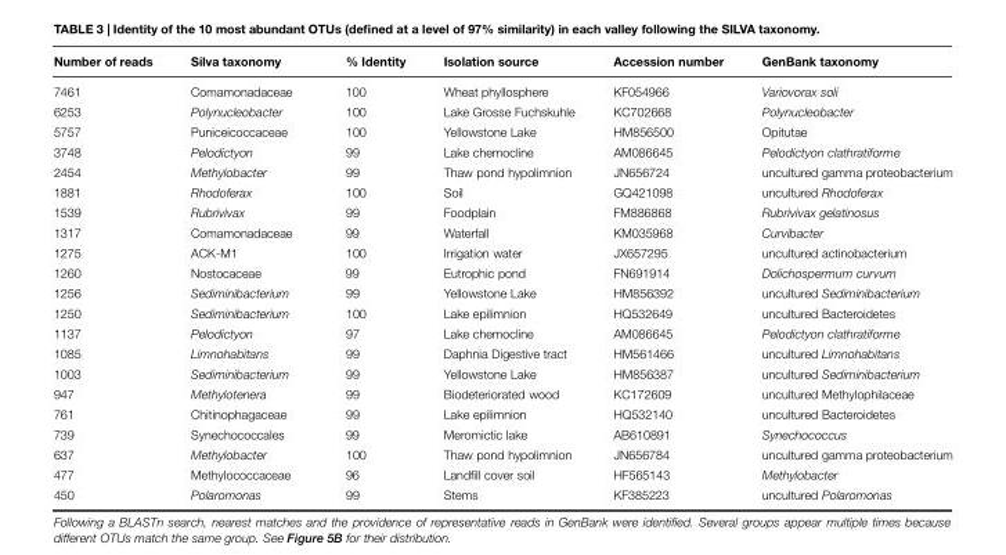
<table><thead><tr><td>Number of reads</td><td>Silva taxonomy</td><td>% Identity</td><td>Isolation source</td><td>Accession number</td><td>GenBank taxonomy</td></tr></thead><tbody><tr><td>7461</td><td>Comamonadaceae</td><td>100</td><td>Wheat phyllosphere</td><td>KF054966</td><td>Variovorax soli</td></tr><tr><td>6253</td><td>Polynucleobacter</td><td>100</td><td>Lake Grosse Fuchskuhle</td><td>KC702668</td><td>Polynucleobacter</td></tr><tr><td>5757</td><td>Puniceicoccaceae</td><td>100</td><td>Yellowstone Lake</td><td>HM856500</td><td>Opitutae</td></tr><tr><td>3748</td><td>Pelodictyon</td><td>99</td><td>Lake chemocline</td><td>AM086645</td><td>Pelodictyon clathratiforme</td></tr><tr><td>2454</td><td>Methylobacter</td><td>99</td><td>Thaw pond hypolimnion</td><td>JN656724</td><td>uncultured gamma proteobacterium</td></tr><tr><td>1881</td><td>Rhodoferax</td><td>100</td><td>Soil</td><td>GQ421098</td><td>uncultured Rhodoferax</td></tr><tr><td>1539</td><td>Rubrivivax</td><td>99</td><td>Foodplain</td><td>FM886868</td><td>Rubrivivax gelatinosus</td></tr><tr><td>1317</td><td>Comamonadaceae</td><td>99</td><td>Waterfall</td><td>KM035968</td><td>Curvibacter</td></tr><tr><td>1275</td><td>ACK-M1</td><td>100</td><td>Irrigation water</td><td>JX657295</td><td>uncultured actinobacterium</td></tr><tr><td>1260</td><td>Nostocaceae</td><td>99</td><td>Eutrophic pond</td><td>FN691914</td><td>Dolichospermum curvum</td></tr><tr><td>1256</td><td>Sediminibacterium</td><td>99</td><td>Yellowstone Lake</td><td>HM856392</td><td>uncultured Sediminibacterium</td></tr><tr><td>1250</td><td>Sediminibacterium</td><td>100</td><td>Lake epilimnion</td><td>HQ532649</td><td>uncultured Bacteroidetes</td></tr><tr><td>1137</td><td>Pelodictyon</td><td>97</td><td>Lake chemocline</td><td>AM086645</td><td>Pelodictyon clathratiforme</td></tr><tr><td>1085</td><td>Limnohabitans</td><td>99</td><td>Daphnia Digestive tract</td><td>HM561466</td><td>uncultured Limnohabitans</td></tr><tr><td>1003</td><td>Sediminibacterium</td><td>99</td><td>Yellowstone Lake</td><td>HM856387</td><td>uncultured Sediminibacterium</td></tr><tr><td>947</td><td>Methylotenera</td><td>99</td><td>Biodeteriorated wood</td><td>KC172609</td><td>uncultured Methylophilaceae</td></tr><tr><td>761</td><td>Chitinophagaceae</td><td>99</td><td>Lake epilimnion</td><td>HQ532140</td><td>uncultured Bacteroidetes</td></tr><tr><td>739</td><td>Synechococcales</td><td>99</td><td>Meromictic lake</td><td>AB610891</td><td>Synechococcus</td></tr><tr><td>637</td><td>Methylobacter</td><td>100</td><td>Thaw pond hypolimnion</td><td>JN656784</td><td>uncultured gamma proteobacterium</td></tr><tr><td>477</td><td>Methylococcaceae</td><td>96</td><td>Landfill cover soil</td><td>HF565143</td><td>Methylobacter</td></tr><tr><td>450</td><td>Polaromonas</td><td>99</td><td>Stems</td><td>KF385223</td><td>uncultured Polaromonas</td></tr></tbody></table>